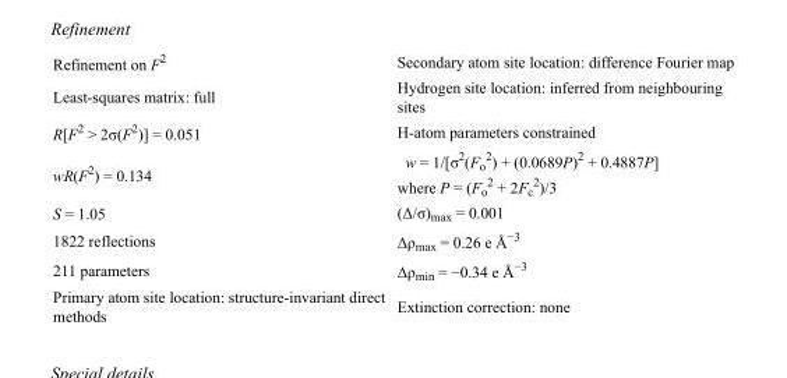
<table><tbody><tr><td>Refinement on F<sup>2</sup></td><td>Secondary atom site location: difference Fourier map</td></tr><tr><td>Least-squares matrix: full</td><td>Hydrogen site location: inferred from neighbouring sites</td></tr><tr><td>R[F<sup>2</sup> &gt; 2σ(F<sup>2</sup>)] = 0.051</td><td>H-atom parameters constrained</td></tr><tr><td>wR(F<sup>2</sup>) = 0.134</td><td>w = 1/[σ<sup>2</sup>(F<sub>o</sub> <sup>2</sup>) + (0.0689P)<sup>2</sup> + 0.4887P] where P = (F<sub>o</sub> <sup>2</sup> + 2F<sub>c</sub> <sup>2</sup>)/3</td></tr><tr><td>S = 1.05</td><td>(Δ/σ)<sub>max</sub> = 0.001</td></tr><tr><td>1822 reflections</td><td>Δρ<sub>max</sub> = 0.26 e Å<sup>−3</sup></td></tr><tr><td>211 parameters</td><td>Δρ<sub>min</sub> = −0.34 e Å<sup>−3</sup></td></tr><tr><td>Primary atom site location: structure-invariant direct methods</td><td>Extinction correction: none</td></tr></tbody></table>